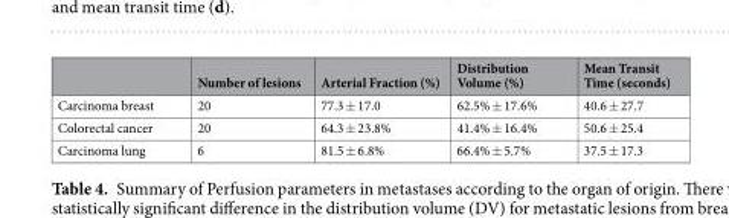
<table><thead><tr><td></td><td>Number of lesions</td><td>Arterial Fraction (%)</td><td>Distribution Volume (%)</td><td>Mean Transit Time (seconds)</td></tr></thead><tbody><tr><td>Carcinoma breast</td><td>20</td><td>77.3 ± 17.0</td><td>62.5% ± 17.6%</td><td>40.6 ± 27.7</td></tr><tr><td>Colorectal cancer</td><td>20</td><td>64.3 ± 23.8%</td><td>41.4% ± 16.4%</td><td>50.6 ± 25.4</td></tr><tr><td>Carcinoma lung</td><td>6</td><td>81.5 ± 6.8%</td><td>66.4% ± 5.7%</td><td>37.5 ± 17.3</td></tr></tbody></table>